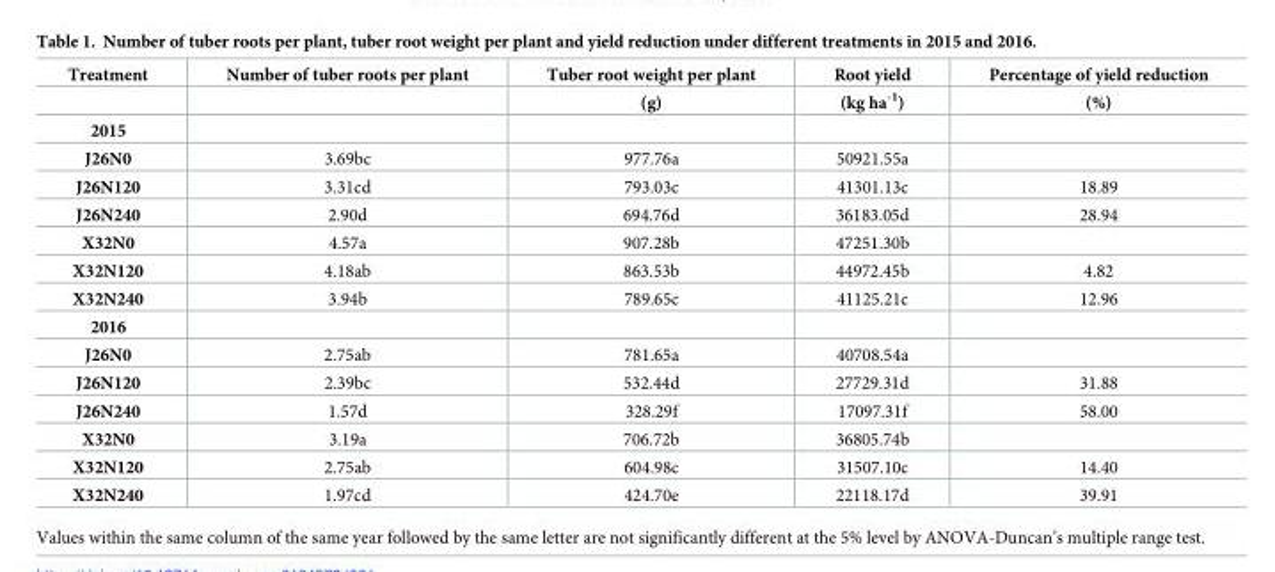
<table><thead><tr><td rowspan="2">Treatment</td><td rowspan="2">Number of tuber roots per plant</td><td rowspan="2">Tuber root weight per plant (g)</td><td rowspan="2">Root yield (kg ha<sup>-1</sup>)</td><td rowspan="2">Percentage of yield reduction (%)</td></tr><tr></tr></thead><tbody><tr><td colspan="5">2015</td></tr><tr><td>J26N0</td><td>3.69bc</td><td>977.76a</td><td>50921.55a</td><td></td></tr><tr><td>J26N120</td><td>3.31cd</td><td>793.03c</td><td>41301.13c</td><td>18.89</td></tr><tr><td>J26N240</td><td>2.90d</td><td>694.76d</td><td>36183.05d</td><td>28.94</td></tr><tr><td>X32N0</td><td>4.57a</td><td>907.28b</td><td>47251.30b</td><td></td></tr><tr><td>X32N120</td><td>4.18ab</td><td>863.53b</td><td>44972.45b</td><td>4.82</td></tr><tr><td>X32N240</td><td>3.94b</td><td>789.65c</td><td>41125.21c</td><td>12.96</td></tr><tr><td colspan="5">2016</td></tr><tr><td>J26N0</td><td>2.75ab</td><td>781.65a</td><td>40708.54a</td><td></td></tr><tr><td>J26N120</td><td>2.39bc</td><td>532.44d</td><td>27729.31d</td><td>31.88</td></tr><tr><td>J26N240</td><td>1.57d</td><td>328.29f</td><td>17097.31f</td><td>58.00</td></tr><tr><td>X32N0</td><td>3.19a</td><td>706.72b</td><td>36805.74b</td><td></td></tr><tr><td>X32N120</td><td>2.75ab</td><td>604.98c</td><td>31507.10c</td><td>14.40</td></tr><tr><td>X32N240</td><td>1.97cd</td><td>424.70e</td><td>22118.17d</td><td>39.91</td></tr></tbody></table>